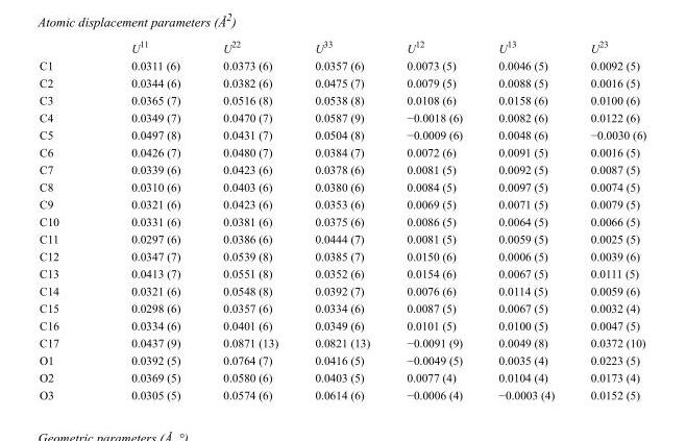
<table><thead><tr><td></td><td>U<sup>11</sup></td><td>U<sup>22</sup></td><td>U<sup>33</sup></td><td>U<sup>12</sup></td><td>U<sup>13</sup></td><td>U<sup>23</sup></td></tr></thead><tbody><tr><td>C1</td><td>0.0311 (6)</td><td>0.0373 (6)</td><td>0.0357 (6)</td><td>0.0073 (5)</td><td>0.0046 (5)</td><td>0.0092 (5)</td></tr><tr><td>C2</td><td>0.0344 (6)</td><td>0.0382 (6)</td><td>0.0475 (7)</td><td>0.0079 (5)</td><td>0.0088 (5)</td><td>0.0016 (5)</td></tr><tr><td>C3</td><td>0.0365 (7)</td><td>0.0516 (8)</td><td>0.0538 (8)</td><td>0.0108 (6)</td><td>0.0158 (6)</td><td>0.0100 (6)</td></tr><tr><td>C4</td><td>0.0349 (7)</td><td>0.0470 (7)</td><td>0.0587 (9)</td><td>−0.0018 (6)</td><td>0.0082 (6)</td><td>0.0122 (6)</td></tr><tr><td>C5</td><td>0.0497 (8)</td><td>0.0431 (7)</td><td>0.0504 (8)</td><td>−0.0009 (6)</td><td>0.0048 (6)</td><td>−0.0030 (6)</td></tr><tr><td>C6</td><td>0.0426 (7)</td><td>0.0480 (7)</td><td>0.0384 (7)</td><td>0.0072 (6)</td><td>0.0091 (5)</td><td>0.0016 (5)</td></tr><tr><td>C7</td><td>0.0339 (6)</td><td>0.0423 (6)</td><td>0.0378 (6)</td><td>0.0081 (5)</td><td>0.0092 (5)</td><td>0.0087 (5)</td></tr><tr><td>C8</td><td>0.0310 (6)</td><td>0.0403 (6)</td><td>0.0380 (6)</td><td>0.0084 (5)</td><td>0.0097 (5)</td><td>0.0074 (5)</td></tr><tr><td>C9</td><td>0.0321 (6)</td><td>0.0423 (6)</td><td>0.0353 (6)</td><td>0.0069 (5)</td><td>0.0071 (5)</td><td>0.0079 (5)</td></tr><tr><td>C10</td><td>0.0331 (6)</td><td>0.0381 (6)</td><td>0.0375 (6)</td><td>0.0086 (5)</td><td>0.0064 (5)</td><td>0.0066 (5)</td></tr><tr><td>C11</td><td>0.0297 (6)</td><td>0.0386 (6)</td><td>0.0444 (7)</td><td>0.0081 (5)</td><td>0.0059 (5)</td><td>0.0025 (5)</td></tr><tr><td>C12</td><td>0.0347 (7)</td><td>0.0539 (8)</td><td>0.0385 (7)</td><td>0.0150 (6)</td><td>0.0006 (5)</td><td>0.0039 (6)</td></tr><tr><td>C13</td><td>0.0413 (7)</td><td>0.0551 (8)</td><td>0.0352 (6)</td><td>0.0154 (6)</td><td>0.0067 (5)</td><td>0.0111 (5)</td></tr><tr><td>C14</td><td>0.0321 (6)</td><td>0.0548 (8)</td><td>0.0392 (7)</td><td>0.0076 (6)</td><td>0.0114 (5)</td><td>0.0059 (6)</td></tr><tr><td>C15</td><td>0.0298 (6)</td><td>0.0357 (6)</td><td>0.0334 (6)</td><td>0.0087 (5)</td><td>0.0067 (5)</td><td>0.0032 (4)</td></tr><tr><td>C16</td><td>0.0334 (6)</td><td>0.0401 (6)</td><td>0.0349 (6)</td><td>0.0101 (5)</td><td>0.0100 (5)</td><td>0.0047 (5)</td></tr><tr><td>C17</td><td>0.0437 (9)</td><td>0.0871 (13)</td><td>0.0821 (13)</td><td>−0.0091 (9)</td><td>0.0049 (8)</td><td>0.0372 (10)</td></tr><tr><td>O1</td><td>0.0392 (5)</td><td>0.0764 (7)</td><td>0.0416 (5)</td><td>−0.0049 (5)</td><td>0.0035 (4)</td><td>0.0223 (5)</td></tr><tr><td>O2</td><td>0.0369 (5)</td><td>0.0580 (6)</td><td>0.0403 (5)</td><td>0.0077 (4)</td><td>0.0104 (4)</td><td>0.0173 (4)</td></tr><tr><td>O3</td><td>0.0305 (5)</td><td>0.0574 (6)</td><td>0.0614 (6)</td><td>−0.0006 (4)</td><td>−0.0003 (4)</td><td>0.0152 (5)</td></tr></tbody></table>